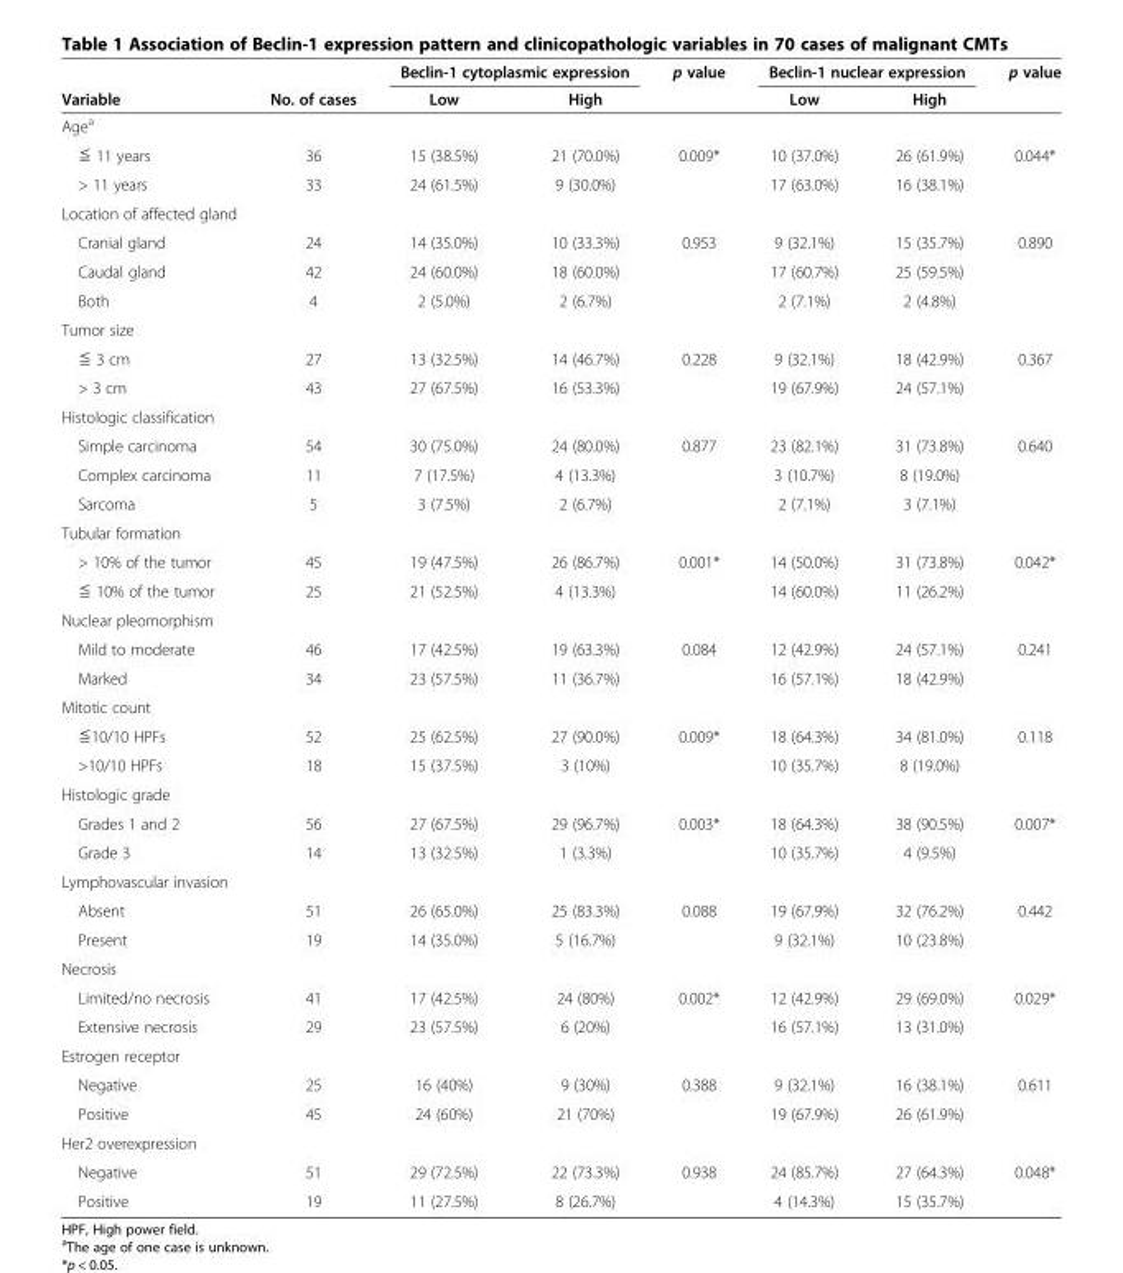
<table><thead><tr><td rowspan="2">Variable</td><td rowspan="2">No. of cases</td><td colspan="2">Beclin-1 cytoplasmic expression</td><td rowspan="2">p value</td><td colspan="2">Beclin-1 nuclear expression</td><td rowspan="2">p value</td></tr><tr><td>Low</td><td>High</td><td>Low</td><td>High</td></tr></thead><tbody><tr><td colspan="8">Age<sup>a</sup></td></tr><tr><td>≦ 11 years</td><td>36</td><td>15 (38.5%)</td><td>21 (70.0%)</td><td>0.009*</td><td>10 (37.0%)</td><td>26 (61.9%)</td><td>0.044*</td></tr><tr><td>&gt; 11 years</td><td>33</td><td>24 (61.5%)</td><td>9 (30.0%)</td><td></td><td>17 (63.0%)</td><td>16 (38.1%)</td><td></td></tr><tr><td colspan="8">Location of affected gland</td></tr><tr><td>Cranial gland</td><td>24</td><td>14 (35.0%)</td><td>10 (33.3%)</td><td>0.953</td><td>9 (32.1%)</td><td>15 (35.7%)</td><td>0.890</td></tr><tr><td>Caudal gland</td><td>42</td><td>24 (60.0%)</td><td>18 (60.0%)</td><td></td><td>17 (60.7%)</td><td>25 (59.5%)</td><td></td></tr><tr><td>Both</td><td>4</td><td>2 (5.0%)</td><td>2 (6.7%)</td><td></td><td>2 (7.1%)</td><td>2 (4.8%)</td><td></td></tr><tr><td colspan="8">Tumor size</td></tr><tr><td>≦ 3 cm</td><td>27</td><td>13 (32.5%)</td><td>14 (46.7%)</td><td>0.228</td><td>9 (32.1%)</td><td>18 (42.9%)</td><td>0.367</td></tr><tr><td>&gt; 3 cm</td><td>43</td><td>27 (67.5%)</td><td>16 (53.3%)</td><td></td><td>19 (67.9%)</td><td>24 (57.1%)</td><td></td></tr><tr><td colspan="8">Histologic classification</td></tr><tr><td>Simple carcinoma</td><td>54</td><td>30 (75.0%)</td><td>24 (80.0%)</td><td>0.877</td><td>23 (82.1%)</td><td>31 (73.8%)</td><td>0.640</td></tr><tr><td>Complex carcinoma</td><td>11</td><td>7 (17.5%)</td><td>4 (13.3%)</td><td></td><td>3 (10.7%)</td><td>8 (19.0%)</td><td></td></tr><tr><td>Sarcoma</td><td>5</td><td>3 (7.5%)</td><td>2 (6.7%)</td><td></td><td>2 (7.1%)</td><td>3 (7.1%)</td><td></td></tr><tr><td colspan="8">Tubular formation</td></tr><tr><td>&gt; 10% of the tumor</td><td>45</td><td>19 (47.5%)</td><td>26 (86.7%)</td><td>0.001*</td><td>14 (50.0%)</td><td>31 (73.8%)</td><td>0.042*</td></tr><tr><td>≦ 10% of the tumor</td><td>25</td><td>21 (52.5%)</td><td>4 (13.3%)</td><td></td><td>14 (60.0%)</td><td>11 (26.2%)</td><td></td></tr><tr><td colspan="8">Nuclear pleomorphism</td></tr><tr><td>Mild to moderate</td><td>46</td><td>17 (42.5%)</td><td>19 (63.3%)</td><td>0.084</td><td>12 (42.9%)</td><td>24 (57.1%)</td><td>0.241</td></tr><tr><td>Marked</td><td>34</td><td>23 (57.5%)</td><td>11 (36.7%)</td><td></td><td>16 (57.1%)</td><td>18 (42.9%)</td><td></td></tr><tr><td colspan="8">Mitotic count</td></tr><tr><td>≦10/10 HPFs</td><td>52</td><td>25 (62.5%)</td><td>27 (90.0%)</td><td>0.009*</td><td>18 (64.3%)</td><td>34 (81.0%)</td><td>0.118</td></tr><tr><td>&gt;10/10 HPFs</td><td>18</td><td>15 (37.5%)</td><td>3 (10%)</td><td></td><td>10 (35.7%)</td><td>8 (19.0%)</td><td></td></tr><tr><td colspan="8">Histologic grade</td></tr><tr><td>Grades 1 and 2</td><td>56</td><td>27 (67.5%)</td><td>29 (96.7%)</td><td>0.003*</td><td>18 (64.3%)</td><td>38 (90.5%)</td><td>0.007*</td></tr><tr><td>Grade 3</td><td>14</td><td>13 (32.5%)</td><td>1 (3.3%)</td><td></td><td>10 (35.7%)</td><td>4 (9.5%)</td><td></td></tr><tr><td colspan="8">Lymphovascular invasion</td></tr><tr><td>Absent</td><td>51</td><td>26 (65.0%)</td><td>25 (83.3%)</td><td>0.088</td><td>19 (67.9%)</td><td>32 (76.2%)</td><td>0.442</td></tr><tr><td>Present</td><td>19</td><td>14 (35.0%)</td><td>5 (16.7%)</td><td></td><td>9 (32.1%)</td><td>10 (23.8%)</td><td></td></tr><tr><td colspan="8">Necrosis</td></tr><tr><td>Limited/no necrosis</td><td>41</td><td>17 (42.5%)</td><td>24 (80%)</td><td>0.002*</td><td>12 (42.9%)</td><td>29 (69.0%)</td><td>0.029*</td></tr><tr><td>Extensive necrosis</td><td>29</td><td>23 (57.5%)</td><td>6 (20%)</td><td></td><td>16 (57.1%)</td><td>13 (31.0%)</td><td></td></tr><tr><td colspan="8">Estrogen receptor</td></tr><tr><td>Negative</td><td>25</td><td>16 (40%)</td><td>9 (30%)</td><td>0.388</td><td>9 (32.1%)</td><td>16 (38.1%)</td><td>0.611</td></tr><tr><td>Positive</td><td>45</td><td>24 (60%)</td><td>21 (70%)</td><td></td><td>19 (67.9%)</td><td>26 (61.9%)</td><td></td></tr><tr><td colspan="8">Her2 overexpression</td></tr><tr><td>Negative</td><td>51</td><td>29 (72.5%)</td><td>22 (73.3%)</td><td>0.938</td><td>24 (85.7%)</td><td>27 (64.3%)</td><td>0.048*</td></tr><tr><td>Positive</td><td>19</td><td>11 (27.5%)</td><td>8 (26.7%)</td><td></td><td>4 (14.3%)</td><td>15 (35.7%)</td><td></td></tr></tbody></table>